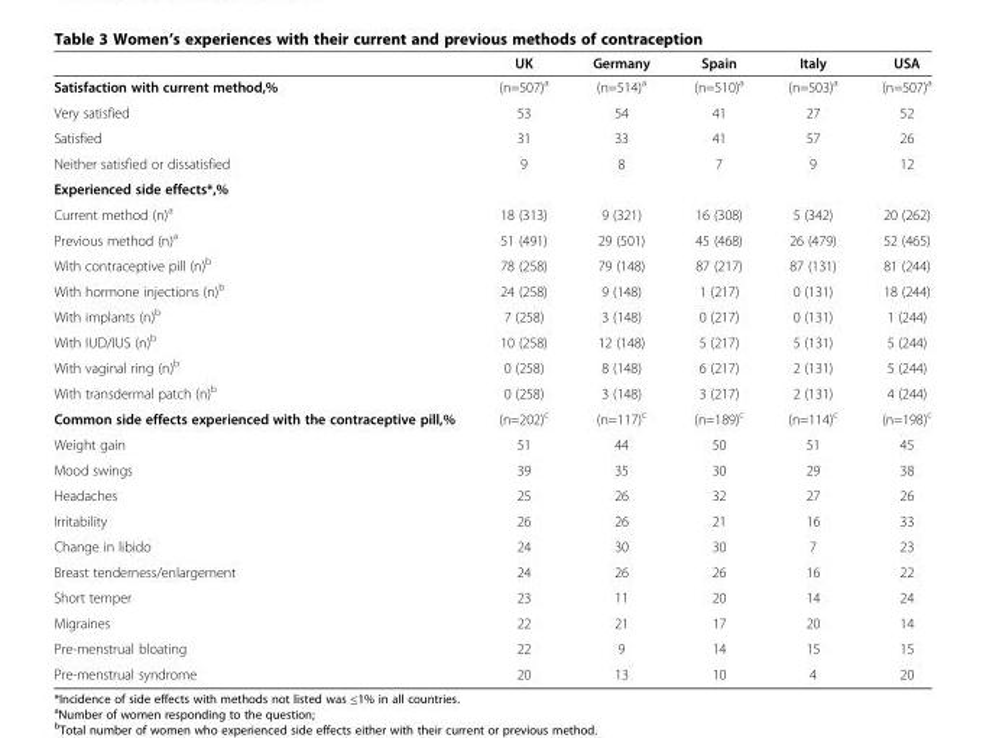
<table><thead><tr><td></td><td>UK</td><td>Germany</td><td>Spain</td><td>Italy</td><td>USA</td></tr></thead><tbody><tr><td>Satisfaction with current method,%</td><td>(n=507)<sup>a</sup></td><td>(n=514)<sup>a</sup></td><td>(n=510)<sup>a</sup></td><td>(n=503)<sup>a</sup></td><td>(n=507)<sup>a</sup></td></tr><tr><td>Very satisfied</td><td>53</td><td>54</td><td>41</td><td>27</td><td>52</td></tr><tr><td>Satisfied</td><td>31</td><td>33</td><td>41</td><td>57</td><td>26</td></tr><tr><td>Neither satisfied or dissatisfied</td><td>9</td><td>8</td><td>7</td><td>9</td><td>12</td></tr><tr><td colspan="6">Experienced side effects*,%</td></tr><tr><td>Current method (n)<sup>a</sup></td><td>18 (313)</td><td>9 (321)</td><td>16 (308)</td><td>5 (342)</td><td>20 (262)</td></tr><tr><td>Previous method (n)<sup>a</sup></td><td>51 (491)</td><td>29 (501)</td><td>45 (468)</td><td>26 (479)</td><td>52 (465)</td></tr><tr><td>With contraceptive pill (n)<sup>b</sup></td><td>78 (258)</td><td>79 (148)</td><td>87 (217)</td><td>87 (131)</td><td>81 (244)</td></tr><tr><td>With hormone injections (n)<sup>b</sup></td><td>24 (258)</td><td>9 (148)</td><td>1 (217)</td><td>0 (131)</td><td>18 (244)</td></tr><tr><td>With implants (n)<sup>b</sup></td><td>7 (258)</td><td>3 (148)</td><td>0 (217)</td><td>0 (131)</td><td>1 (244)</td></tr><tr><td>With IUD/IUS (n)<sup>b</sup></td><td>10 (258)</td><td>12 (148)</td><td>5 (217)</td><td>5 (131)</td><td>5 (244)</td></tr><tr><td>With vaginal ring (n)<sup>b</sup></td><td>0 (258)</td><td>8 (148)</td><td>6 (217)</td><td>2 (131)</td><td>5 (244)</td></tr><tr><td>With transdermal patch (n)<sup>b</sup></td><td>0 (258)</td><td>3 (148)</td><td>3 (217)</td><td>2 (131)</td><td>4 (244)</td></tr><tr><td>Common side effects experienced with the contraceptive pill,%</td><td>(n=202)<sup>c</sup></td><td>(n=117)<sup>c</sup></td><td>(n=189)<sup>c</sup></td><td>(n=114)<sup>c</sup></td><td>(n=198)<sup>c</sup></td></tr><tr><td>Weight gain</td><td>51</td><td>44</td><td>50</td><td>51</td><td>45</td></tr><tr><td>Mood swings</td><td>39</td><td>35</td><td>30</td><td>29</td><td>38</td></tr><tr><td>Headaches</td><td>25</td><td>26</td><td>32</td><td>27</td><td>26</td></tr><tr><td>Irritability</td><td>26</td><td>26</td><td>21</td><td>16</td><td>33</td></tr><tr><td>Change in libido</td><td>24</td><td>30</td><td>30</td><td>7</td><td>23</td></tr><tr><td>Breast tenderness/enlargement</td><td>24</td><td>26</td><td>26</td><td>16</td><td>22</td></tr><tr><td>Short temper</td><td>23</td><td>11</td><td>20</td><td>14</td><td>24</td></tr><tr><td>Migraines</td><td>22</td><td>21</td><td>17</td><td>20</td><td>14</td></tr><tr><td>Pre-menstrual bloating</td><td>22</td><td>9</td><td>14</td><td>15</td><td>15</td></tr><tr><td>Pre-menstrual syndrome</td><td>20</td><td>13</td><td>10</td><td>4</td><td>20</td></tr></tbody></table>